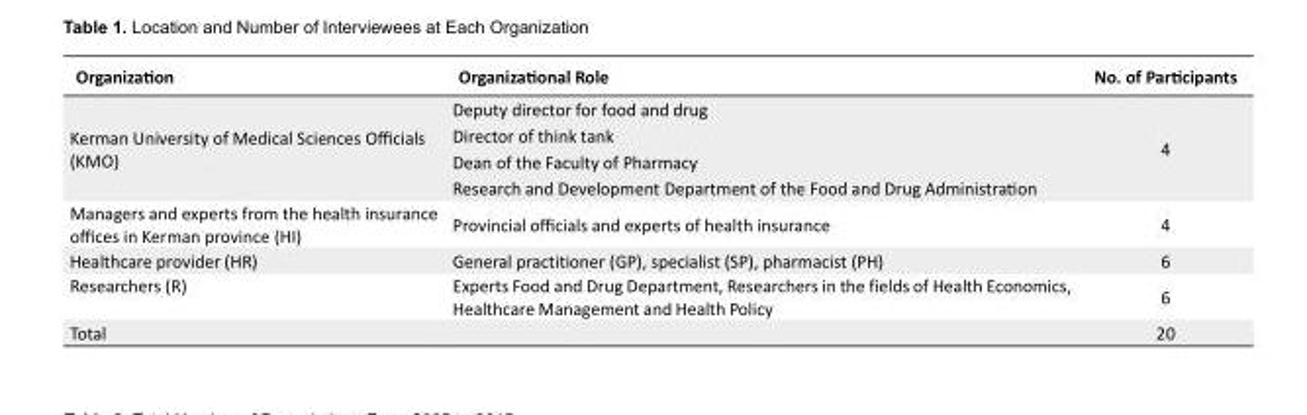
<table><tbody><tr><td>Organization</td><td>Organizational Role</td><td>No. of Participants</td></tr><tr><td rowspan="4">Kerman University of Medical Sciences Officials (KMO)</td><td>Deputy director for food and drug</td><td rowspan="4">4</td></tr><tr><td>Director of think tank</td></tr><tr><td>Dean of the Faculty of Pharmacy</td></tr><tr><td>Research and Development Department of the Food and Drug Administration</td></tr><tr><td>Managers and experts from the health insurance offices in Kerman province (HI)</td><td>Provincial officials and experts of health insurance</td><td>4</td></tr><tr><td>Healthcare provider (HR)</td><td>General practitioner (GP), specialist (SP), pharmacist (PH)</td><td>6</td></tr><tr><td>Researchers (R)</td><td>Experts Food and Drug Department, Researchers in the fields of Health Economics, Healthcare Management and Health Policy</td><td>6</td></tr><tr><td>Total</td><td></td><td>20</td></tr></tbody></table>